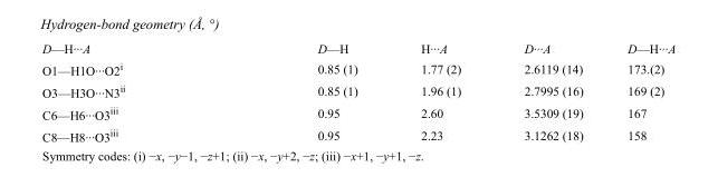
<table><tbody><tr><td>D—H···A</td><td>D—H</td><td>H···A</td><td>D···A</td><td>D—H···A</td></tr><tr><td>O1—H1O···O2<sup>i</sup></td><td>0.85 (1)</td><td>1.77 (2)</td><td>2.6119 (14)</td><td>173.(2)</td></tr><tr><td>O3—H3O···N3<sup>ii</sup></td><td>0.85 (1)</td><td>1.96 (1)</td><td>2.7995 (16)</td><td>169 (2)</td></tr><tr><td>C6—H6···O3<sup>iii</sup></td><td>0.95</td><td>2.60</td><td>3.5309 (19)</td><td>167</td></tr><tr><td>C8—H8···O3<sup>iii</sup></td><td>0.95</td><td>2.23</td><td>3.1262 (18)</td><td>158</td></tr></tbody></table>